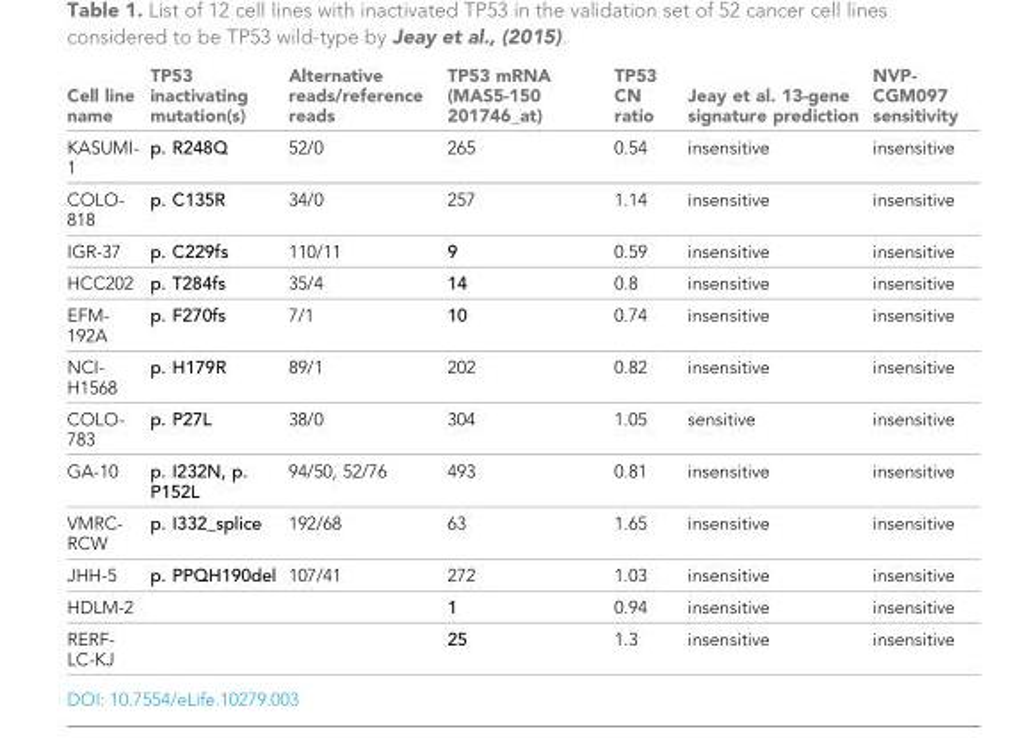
<table><thead><tr><td>Cell line name</td><td>TP53 inactivating mutation(s)</td><td>Alternative reads/reference reads</td><td>TP53 mRNA (MAS5-150 201746_at)</td><td>TP53 CN ratio</td><td>Jeay et al. 13-gene signature prediction</td><td>NVP- CGM097 sensitivity</td></tr></thead><tbody><tr><td>KASUMI- 1</td><td>p. R248Q</td><td>52/0</td><td>265</td><td>0.54</td><td>insensitive</td><td>insensitive</td></tr><tr><td>COLO- 818</td><td>p. C135R</td><td>34/0</td><td>257</td><td>1.14</td><td>insensitive</td><td>insensitive</td></tr><tr><td>IGR-37</td><td>p. C229fs</td><td>110/11</td><td>9</td><td>0.59</td><td>insensitive</td><td>insensitive</td></tr><tr><td>HCC202</td><td>p. T284fs</td><td>35/4</td><td>14</td><td>0.8</td><td>insensitive</td><td>insensitive</td></tr><tr><td>EFM- 192A</td><td>p. F270fs</td><td>7/1</td><td>10</td><td>0.74</td><td>insensitive</td><td>insensitive</td></tr><tr><td>NCI- H1568</td><td>p. H179R</td><td>89/1</td><td>202</td><td>0.82</td><td>insensitive</td><td>insensitive</td></tr><tr><td>COLO- 783</td><td>p. P27L</td><td>38/0</td><td>304</td><td>1.05</td><td>sensitive</td><td>insensitive</td></tr><tr><td>GA-10</td><td>p. I232N, p. P152L</td><td>94/50, 52/76</td><td>493</td><td>0.81</td><td>insensitive</td><td>insensitive</td></tr><tr><td>VMRC- RCW</td><td>p. I332_splice</td><td>192/68</td><td>63</td><td>1.65</td><td>insensitive</td><td>insensitive</td></tr><tr><td>JHH-5</td><td>p. PPQH190del</td><td>107/41</td><td>272</td><td>1.03</td><td>insensitive</td><td>insensitive</td></tr><tr><td>HDLM-2</td><td></td><td></td><td>1</td><td>0.94</td><td>insensitive</td><td>insensitive</td></tr><tr><td>RERF- LC-KJ</td><td></td><td></td><td>25</td><td>1.3</td><td>insensitive</td><td>insensitive</td></tr></tbody></table>